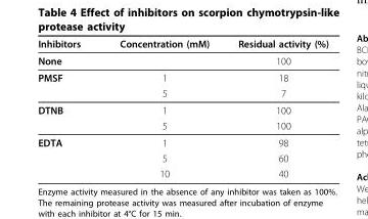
<table><thead><tr><td>Inhibitors</td><td>Concentration (mM)</td><td>Residual activity (%)</td></tr></thead><tbody><tr><td>None</td><td></td><td>100</td></tr><tr><td rowspan="2">PMSF</td><td>1</td><td>18</td></tr><tr><td>5</td><td>7</td></tr><tr><td rowspan="2">DTNB</td><td>1</td><td>100</td></tr><tr><td>5</td><td>100</td></tr><tr><td rowspan="3">EDTA</td><td>1</td><td>98</td></tr><tr><td>5</td><td>60</td></tr><tr><td>10</td><td>40</td></tr></tbody></table>